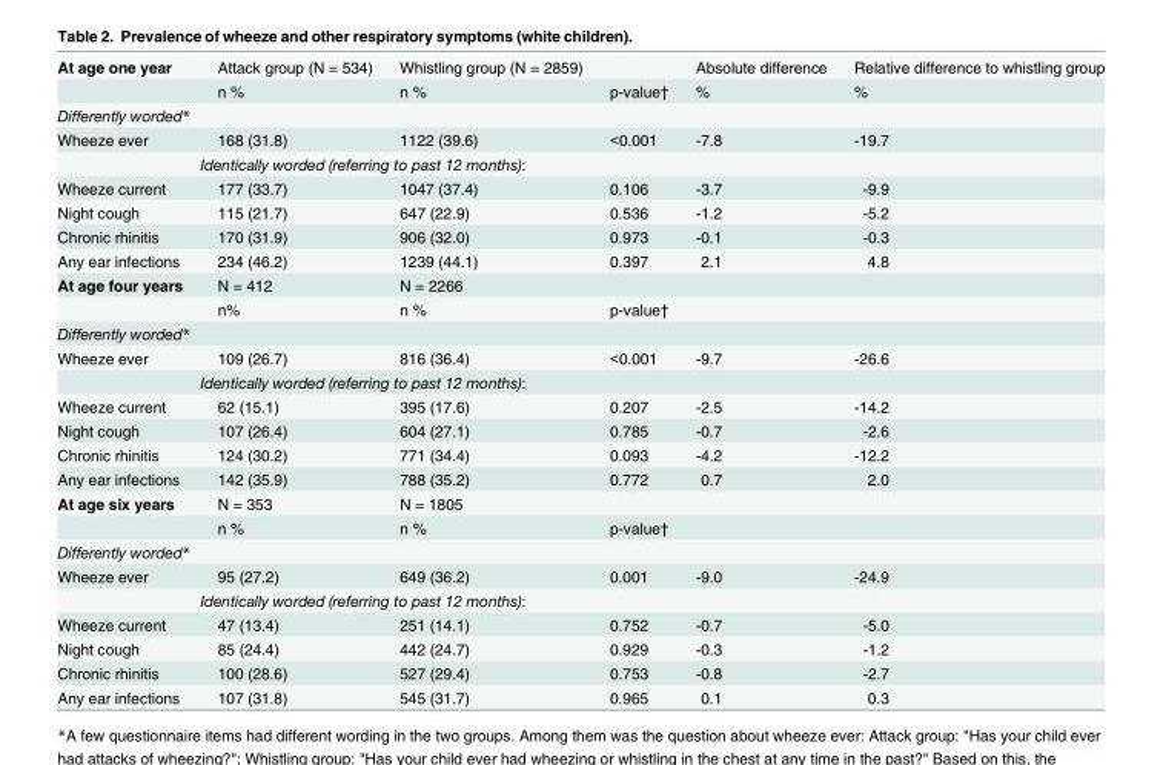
<table><tbody><tr><td rowspan="2">At age one year</td><td>Attack group (N = 534)</td><td>Whistling group (N = 2859)</td><td></td><td>Absolute difference</td><td>Relative difference to whistling group</td></tr><tr><td>n %</td><td>n %</td><td>p-value†</td><td>%</td><td>%</td></tr><tr><td colspan="6">Differently worded*</td></tr><tr><td>Wheeze ever</td><td>168 (31.8)</td><td>1122 (39.6)</td><td>&lt;0.001</td><td>-7.8</td><td>-19.7</td></tr><tr><td colspan="6">Identically worded (referring to past 12 months):</td></tr><tr><td>Wheeze current</td><td>177 (33.7)</td><td>1047 (37.4)</td><td>0.106</td><td>-3.7</td><td>-9.9</td></tr><tr><td>Night cough</td><td>115 (21.7)</td><td>647 (22.9)</td><td>0.536</td><td>-1.2</td><td>-5.2</td></tr><tr><td>Chronic rhinitis</td><td>170 (31.9)</td><td>906 (32.0)</td><td>0.973</td><td>-0.1</td><td>-0.3</td></tr><tr><td>Any ear infections</td><td>234 (46.2)</td><td>1239 (44.1)</td><td>0.397</td><td>2.1</td><td>4.8</td></tr><tr><td rowspan="2">At age four years</td><td>N = 412</td><td>N = 2266</td><td></td><td></td><td></td></tr><tr><td>n%</td><td>n %</td><td>p-value†</td><td></td><td></td></tr><tr><td colspan="6">Differently worded*</td></tr><tr><td>Wheeze ever</td><td>109 (26.7)</td><td>816 (36.4)</td><td>&lt;0.001</td><td>-9.7</td><td>-26.6</td></tr><tr><td colspan="6">Identically worded (referring to past 12 months):</td></tr><tr><td>Wheeze current</td><td>62 (15.1)</td><td>395 (17.6)</td><td>0.207</td><td>-2.5</td><td>-14.2</td></tr><tr><td>Night cough</td><td>107 (26.4)</td><td>604 (27.1)</td><td>0.785</td><td>-0.7</td><td>-2.6</td></tr><tr><td>Chronic rhinitis</td><td>124 (30.2)</td><td>771 (34.4)</td><td>0.093</td><td>-4.2</td><td>-12.2</td></tr><tr><td>Any ear infections</td><td>142 (35.9)</td><td>788 (35.2)</td><td>0.772</td><td>0.7</td><td>2.0</td></tr><tr><td rowspan="2">At age six years</td><td>N = 353</td><td>N = 1805</td><td></td><td></td><td></td></tr><tr><td>n %</td><td>n %</td><td>p-value†</td><td></td><td></td></tr><tr><td colspan="6">Differently worded*</td></tr><tr><td>Wheeze ever</td><td>95 (27.2)</td><td>649 (36.2)</td><td>0.001</td><td>-9.0</td><td>-24.9</td></tr><tr><td colspan="6">Identically worded (referring to past 12 months):</td></tr><tr><td>Wheeze current</td><td>47 (13.4)</td><td>251 (14.1)</td><td>0.752</td><td>-0.7</td><td>-5.0</td></tr><tr><td>Night cough</td><td>85 (24.4)</td><td>442 (24.7)</td><td>0.929</td><td>-0.3</td><td>-1.2</td></tr><tr><td>Chronic rhinitis</td><td>100 (28.6)</td><td>527 (29.4)</td><td>0.753</td><td>-0.8</td><td>-2.7</td></tr><tr><td>Any ear infections</td><td>107 (31.8)</td><td>545 (31.7)</td><td>0.965</td><td>0.1</td><td>0.3</td></tr></tbody></table>